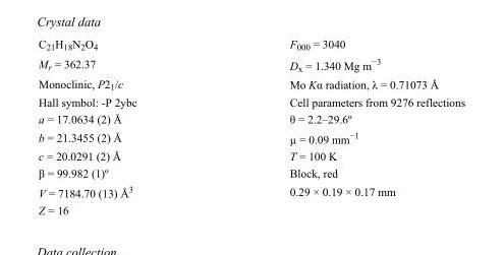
<table><tbody><tr><td>C<sub>21</sub>H<sub>18</sub>N<sub>2</sub>O<sub>4</sub></td><td>F000 = 3040</td></tr><tr><td>M<sub>r</sub> = 362.37</td><td>D<sub>x</sub> = 1.340 Mg m<sup>−3</sup></td></tr><tr><td>Monoclinic, P2<sub>1</sub>/c</td><td>Mo Kα radiation, λ = 0.71073 Å</td></tr><tr><td>Hall symbol: -P 2ybc</td><td>Cell parameters from 9276 reflections</td></tr><tr><td>a = 17.0634 (2) Å</td><td>θ = 2.2–29.6º</td></tr><tr><td>b = 21.3455 (2) Å</td><td>µ = 0.09 mm<sup>−1</sup></td></tr><tr><td>c = 20.0291 (2) Å</td><td>T = 100 K</td></tr><tr><td>β = 99.982 (1)º</td><td>Block, red</td></tr><tr><td>V = 7184.70 (13) Å<sup>3</sup></td><td>0.29 × 0.19 × 0.17 mm</td></tr><tr><td>Z = 16</td><td></td></tr></tbody></table>